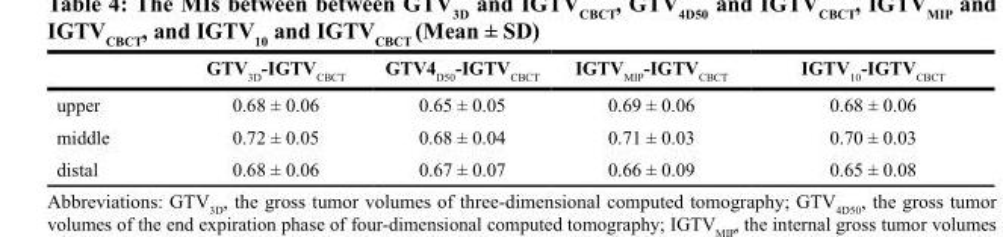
<table><thead><tr><td></td><td>GTV<sub>3D</sub>-IGTV<sub>CBCT</sub></td><td>GTV4<sub>D50</sub>-IGTV<sub>CBCT</sub></td><td>IGTV<sub>MIP</sub>-IGTV<sub>CBCT</sub></td><td>IGTV<sub>10</sub>-IGTV<sub>CBCT</sub></td></tr></thead><tbody><tr><td>upper</td><td>0.68 ± 0.06</td><td>0.65 ± 0.05</td><td>0.69 ± 0.06</td><td>0.68 ± 0.06</td></tr><tr><td>middle</td><td>0.72 ± 0.05</td><td>0.68 ± 0.04</td><td>0.71 ± 0.03</td><td>0.70 ± 0.03</td></tr><tr><td>distal</td><td>0.68 ± 0.06</td><td>0.67 ± 0.07</td><td>0.66 ± 0.09</td><td>0.65 ± 0.08</td></tr></tbody></table>